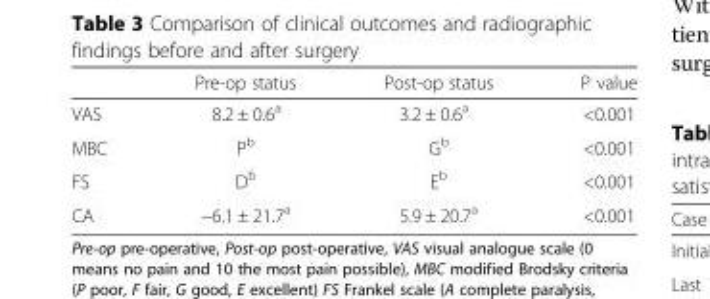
<table><thead><tr><td></td><td>Pre-op status</td><td>Post-op status</td><td>P value</td></tr></thead><tbody><tr><td>VAS</td><td>8.2 ± 0.6<sup>a</sup></td><td>3.2 ± 0.6<sup>a</sup></td><td>&lt;0.001</td></tr><tr><td>MBC</td><td>P<sup>b</sup></td><td>G<sup>b</sup></td><td>&lt;0.001</td></tr><tr><td>FS</td><td>D<sup>b</sup></td><td>E<sup>b</sup></td><td>&lt;0.001</td></tr><tr><td>CA</td><td>−6.1 ± 21.7<sup>a</sup></td><td>5.9 ± 20.7<sup>a</sup></td><td>&lt;0.001</td></tr></tbody></table>